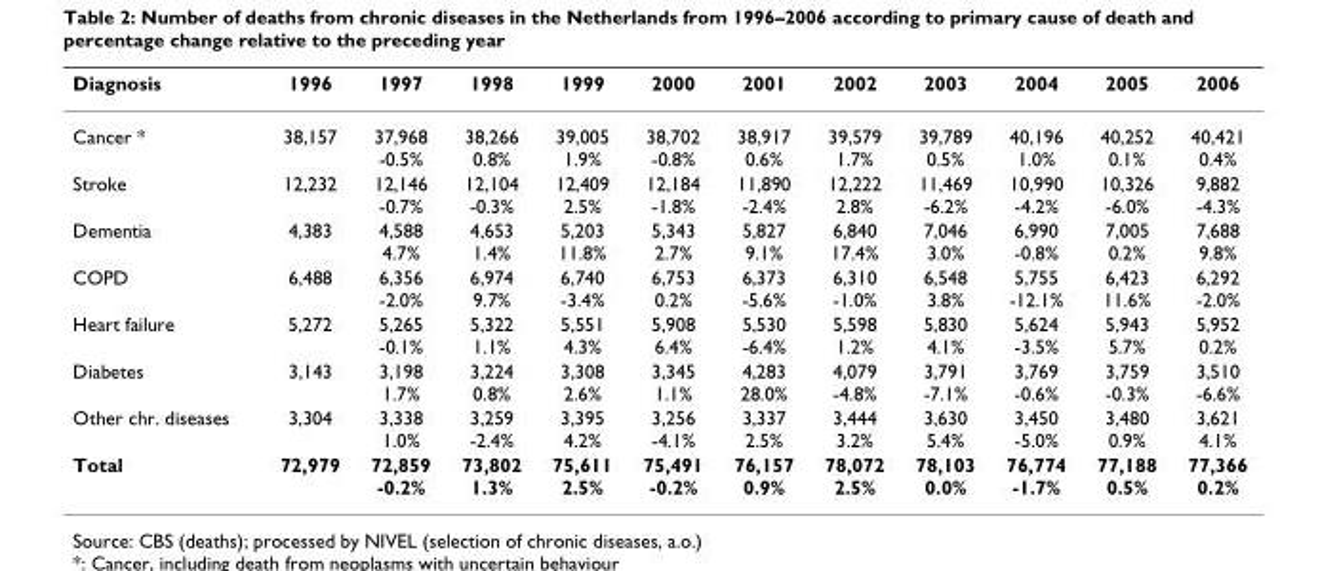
<table><thead><tr><td>Diagnosis</td><td>1996</td><td>1997</td><td>1998</td><td>1999</td><td>2000</td><td>2001</td><td>2002</td><td>2003</td><td>2004</td><td>2005</td><td>2006</td></tr></thead><tbody><tr><td>Cancer *</td><td>38,157</td><td>37,968 -0.5%</td><td>38,266 0.8%</td><td>39,005 1.9%</td><td>38,702 -0.8%</td><td>38,917 0.6%</td><td>39,579 1.7%</td><td>39,789 0.5%</td><td>40,196 1.0%</td><td>40,252 0.1%</td><td>40,421 0.4%</td></tr><tr><td>Stroke</td><td>12,232</td><td>12,146 -0.7%</td><td>12,104 -0.3%</td><td>12,409 2.5%</td><td>12,184 -1.8%</td><td>11,890 -2.4%</td><td>12,222 2.8%</td><td>11,469 -6.2%</td><td>10,990 -4.2%</td><td>10,326 -6.0%</td><td>9,882 -4.3%</td></tr><tr><td>Dementia</td><td>4,383</td><td>4,588 4.7%</td><td>4,653 1.4%</td><td>5,203 11.8%</td><td>5,343 2.7%</td><td>5,827 9.1%</td><td>6,840 17.4%</td><td>7,046 3.0%</td><td>6,990 -0.8%</td><td>7,005 0.2%</td><td>7,688 9.8%</td></tr><tr><td>COPD</td><td>6,488</td><td>6,356 -2.0%</td><td>6,974 9.7%</td><td>6,740 -3.4%</td><td>6,753 0.2%</td><td>6,373 -5.6%</td><td>6,310 -1.0%</td><td>6,548 3.8%</td><td>5,755 -12.1%</td><td>6,423 11.6%</td><td>6,292 -2.0%</td></tr><tr><td>Heart failure</td><td>5,272</td><td>5,265 -0.1%</td><td>5,322 1.1%</td><td>5,551 4.3%</td><td>5,908 6.4%</td><td>5,530 -6.4%</td><td>5,598 1.2%</td><td>5,830 4.1%</td><td>5,624 -3.5%</td><td>5,943 5.7%</td><td>5,952 0.2%</td></tr><tr><td>Diabetes</td><td>3,143</td><td>3,198 1.7%</td><td>3,224 0.8%</td><td>3,308 2.6%</td><td>3,345 1.1%</td><td>4,283 28.0%</td><td>4,079 -4.8%</td><td>3,791 -7.1%</td><td>3,769 -0.6%</td><td>3,759 -0.3%</td><td>3,510 -6.6%</td></tr><tr><td>Other chr. diseases</td><td>3,304</td><td>3,338 1.0%</td><td>3,259 -2.4%</td><td>3,395 4.2%</td><td>3,256 -4.1%</td><td>3,337 2.5%</td><td>3,444 3.2%</td><td>3,630 5.4%</td><td>3,450 -5.0%</td><td>3,480 0.9%</td><td>3,621 4.1%</td></tr><tr><td>Total</td><td>72,979</td><td>72,859 -0.2%</td><td>73,802 1.3%</td><td>75,611 2.5%</td><td>75,491 -0.2%</td><td>76,157 0.9%</td><td>78,072 2.5%</td><td>78,103 0.0%</td><td>76,774 -1.7%</td><td>77,188 0.5%</td><td>77,366 0.2%</td></tr></tbody></table>